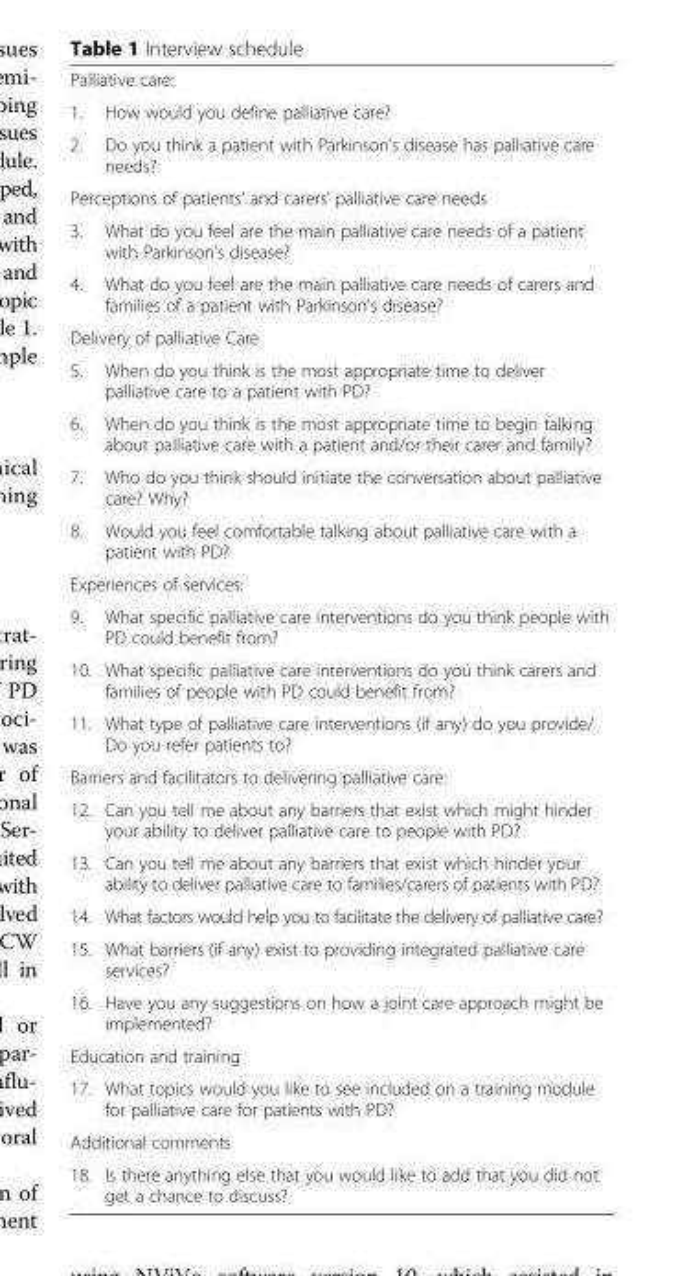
<table><tbody><tr><td colspan="2">Palliative care:</td></tr><tr><td>1.</td><td>How would you define palliative care?</td></tr><tr><td>2.</td><td>Do you think a patient with Parkinson’s disease has palliative care needs?</td></tr><tr><td colspan="2">Perceptions of patients’ and carers’ palliative care needs</td></tr><tr><td>3.</td><td>What do you feel are the main palliative care needs of a patient with Parkinson’s disease?</td></tr><tr><td>4.</td><td>What do you feel are the main palliative care needs of carers and families of a patient with Parkinson’s disease?</td></tr><tr><td colspan="2">Delivery of palliative Care</td></tr><tr><td>5.</td><td>When do you think is the most appropriate time to deliver palliative care to a patient with PD?</td></tr><tr><td>6.</td><td>When do you think is the most appropriate time to begin talking about palliative care with a patient and/or their carer and family?</td></tr><tr><td>7.</td><td>Who do you think should initiate the conversation about palliative care? Why?</td></tr><tr><td>8.</td><td>Would you feel comfortable talking about palliative care with a patient with PD?</td></tr><tr><td colspan="2">Experiences of services:</td></tr><tr><td>9.</td><td>What specific palliative care interventions do you think people with PD could benefit from?</td></tr><tr><td>10.</td><td>What specific palliative care interventions do you think carers and families of people with PD could benefit from?</td></tr><tr><td>11.</td><td>What type of palliative care interventions (if any) do you provide/ Do you refer patients to?</td></tr><tr><td colspan="2">Barriers and facilitators to delivering palliative care:</td></tr><tr><td>12.</td><td>Can you tell me about any barriers that exist which might hinder your ability to deliver palliative care to people with PD?</td></tr><tr><td>13.</td><td>Can you tell me about any barriers that exist which hinder your ability to deliver palliative care to families/carers of patients with PD?</td></tr><tr><td>14.</td><td>What factors would help you to facilitate the delivery of palliative care?</td></tr><tr><td>15.</td><td>What barriers (if any) exist to providing integrated palliative care services?</td></tr><tr><td>16.</td><td>Have you any suggestions on how a joint care approach might be implemented?</td></tr><tr><td colspan="2">Education and training</td></tr><tr><td>17.</td><td>What topics would you like to see included on a training module for palliative care for patients with PD?</td></tr><tr><td colspan="2">Additional comments</td></tr><tr><td>18.</td><td>Is there anything else that you would like to add that you did not get a chance to discuss?</td></tr></tbody></table>